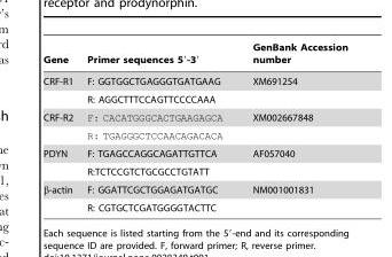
<table><thead><tr><td>Gene</td><td>Primer sequences 5′-3′</td><td>GenBank Accession number</td></tr></thead><tbody><tr><td rowspan="2">CRF-R1</td><td>F: GGTGGCTGAGGGTGATGAAG</td><td>XM691254</td></tr><tr><td>R: AGGCTTTCCAGTTCCCCAAA</td><td></td></tr><tr><td rowspan="2">CRF-R2</td><td>F: CACATGGGCACTGAAGAGCA</td><td>XM002667848</td></tr><tr><td>R: TGAGGGCTCCAACAGACACA</td><td></td></tr><tr><td rowspan="2">PDYN</td><td>F: TGAGCCAGGCAGATTGTTCA</td><td>AF057040</td></tr><tr><td>R:TCTCCGTCTGCGCCTGTATT</td><td></td></tr><tr><td rowspan="2">β-actin</td><td>F: GGATTCGCTGGAGATGATGC</td><td>NM001001831</td></tr><tr><td>R: CGTGCTCGATGGGGTACTTC</td><td></td></tr></tbody></table>